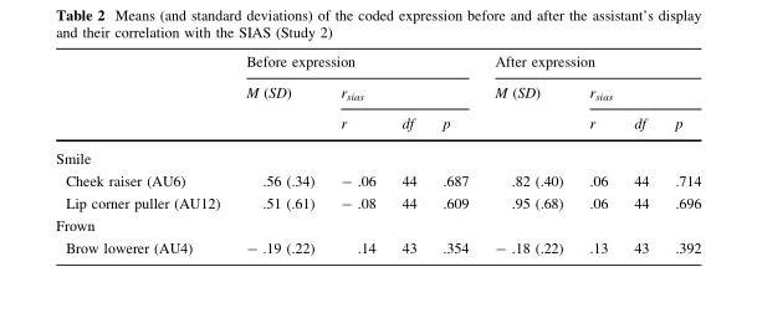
<table><thead><tr><td rowspan="3"></td><td colspan="4">Before expression</td><td colspan="4">After expression</td></tr><tr><td rowspan="2">M (SD)</td><td colspan="3">r<sub>sias</sub></td><td rowspan="2">M (SD)</td><td colspan="3">r<sub>sias</sub></td></tr><tr><td>r</td><td>df</td><td>p</td><td>r</td><td>df</td><td>p</td></tr></thead><tbody><tr><td colspan="9">Smile</td></tr><tr><td>Cheek raiser (AU6)</td><td>.56 (.34)</td><td>- .06</td><td>44</td><td>.687</td><td>.82 (.40)</td><td>.06</td><td>44</td><td>.714</td></tr><tr><td>Lip corner puller (AU12)</td><td>.51 (.61)</td><td>- .08</td><td>44</td><td>.609</td><td>.95 (.68)</td><td>.06</td><td>44</td><td>.696</td></tr><tr><td colspan="9">Frown</td></tr><tr><td>Brow lowerer (AU4)</td><td>- .19 (.22)</td><td>.14</td><td>43</td><td>.354</td><td>- .18 (.22)</td><td>.13</td><td>43</td><td>.392</td></tr></tbody></table>